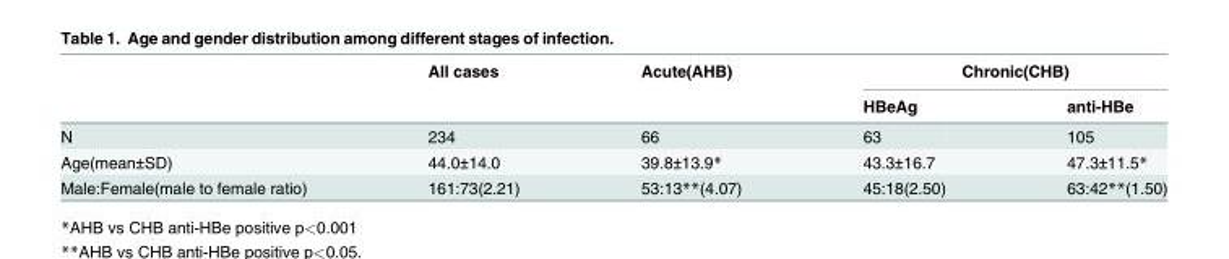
<table><thead><tr><td rowspan="2"></td><td rowspan="2">All cases</td><td rowspan="2">Acute(AHB)</td><td colspan="2">Chronic(CHB)</td></tr><tr><td>HBeAg</td><td>anti-HBe</td></tr></thead><tbody><tr><td>N</td><td>234</td><td>66</td><td>63</td><td>105</td></tr><tr><td>Age(mean±SD)</td><td>44.0±14.0</td><td>39.8±13.9*</td><td>43.3±16.7</td><td>47.3±11.5*</td></tr><tr><td>Male:Female(male to female ratio)</td><td>161:73(2.21)</td><td>53:13**(4.07)</td><td>45:18(2.50)</td><td>63:42**(1.50)</td></tr></tbody></table>